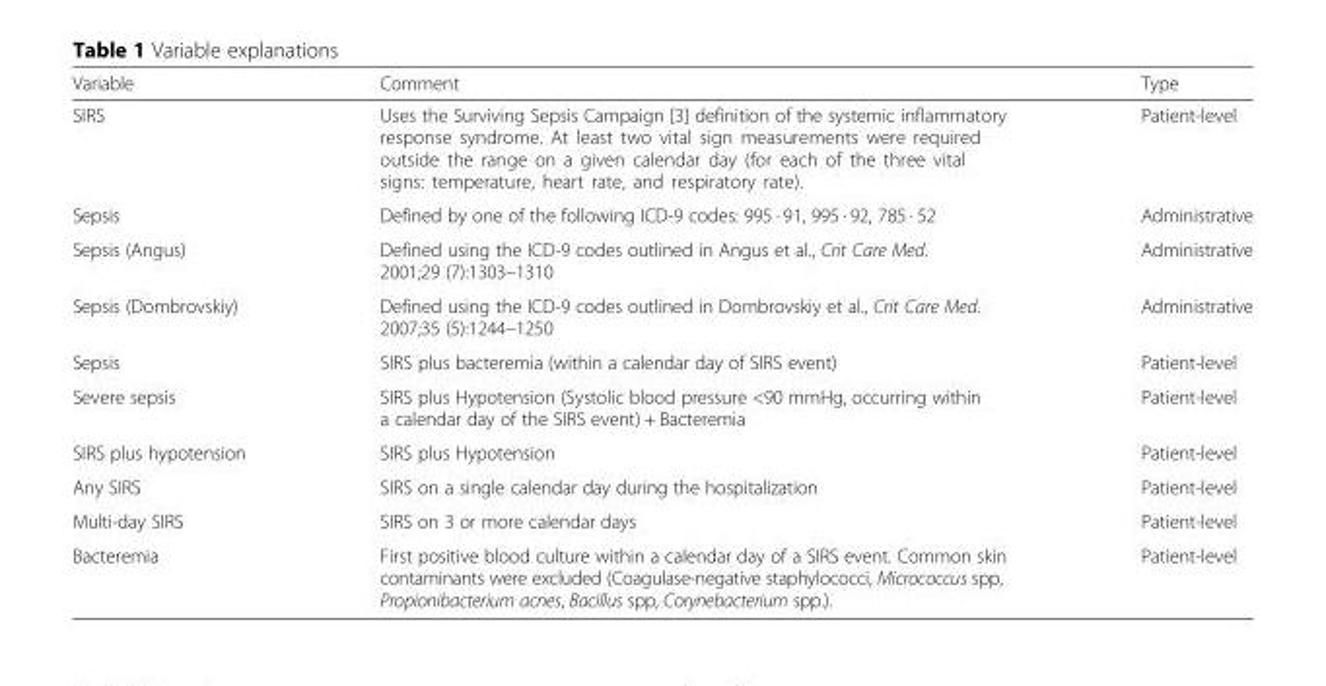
<table><thead><tr><td>Variable</td><td>Comment</td><td>Type</td></tr></thead><tbody><tr><td>SIRS</td><td>Uses the Surviving Sepsis Campaign [3] definition of the systemic inflammatory response syndrome. At least two vital sign measurements were required outside the range on a given calendar day (for each of the three vital signs: temperature, heart rate, and respiratory rate).</td><td>Patient-level</td></tr><tr><td>Sepsis</td><td>Defined by one of the following ICD-9 codes: 995 · 91, 995 · 92, 785 · 52</td><td>Administrative</td></tr><tr><td>Sepsis (Angus)</td><td>Defined using the ICD-9 codes outlined in Angus et al., Crit Care Med. 2001;29 (7):1303–1310</td><td>Administrative</td></tr><tr><td>Sepsis (Dombrovskiy)</td><td>Defined using the ICD-9 codes outlined in Dombrovskiy et al., Crit Care Med. 2007;35 (5):1244–1250</td><td>Administrative</td></tr><tr><td>Sepsis</td><td>SIRS plus bacteremia (within a calendar day of SIRS event)</td><td>Patient-level</td></tr><tr><td>Severe sepsis</td><td>SIRS plus Hypotension (Systolic blood pressure &lt;90 mmHg, occurring within a calendar day of the SIRS event) + Bacteremia</td><td>Patient-level</td></tr><tr><td>SIRS plus hypotension</td><td>SIRS plus Hypotension</td><td>Patient-level</td></tr><tr><td>Any SIRS</td><td>SIRS on a single calendar day during the hospitalization</td><td>Patient-level</td></tr><tr><td>Multi-day SIRS</td><td>SIRS on 3 or more calendar days</td><td>Patient-level</td></tr><tr><td>Bacteremia</td><td>First positive blood culture within a calendar day of a SIRS event. Common skin contaminants were excluded (Coagulase-negative staphylococci, Micrococcus spp, Propionibacterium acnes, Bacillus spp, Corynebacterium spp.).</td><td>Patient-level</td></tr></tbody></table>